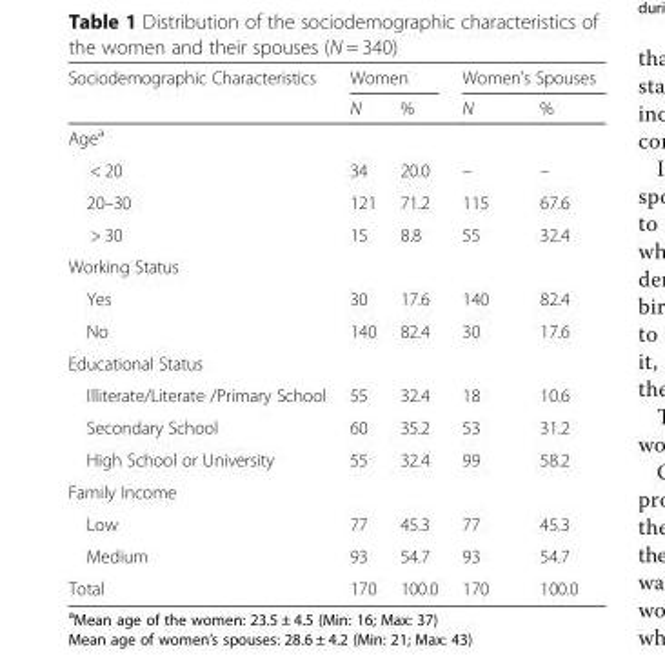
<table><thead><tr><td rowspan="2">Sociodemographic Characteristics</td><td colspan="2">Women</td><td colspan="2">Women’s Spouses</td></tr><tr><td>N</td><td>%</td><td>N</td><td>%</td></tr></thead><tbody><tr><td colspan="5">Age<sup>a</sup></td></tr><tr><td>&lt; 20</td><td>34</td><td>20.0</td><td>–</td><td>–</td></tr><tr><td>20–30</td><td>121</td><td>71.2</td><td>115</td><td>67.6</td></tr><tr><td>&gt; 30</td><td>15</td><td>8.8</td><td>55</td><td>32.4</td></tr><tr><td colspan="5">Working Status</td></tr><tr><td>Yes</td><td>30</td><td>17.6</td><td>140</td><td>82.4</td></tr><tr><td>No</td><td>140</td><td>82.4</td><td>30</td><td>17.6</td></tr><tr><td colspan="5">Educational Status</td></tr><tr><td>Illiterate/Literate /Primary School</td><td>55</td><td>32.4</td><td>18</td><td>10.6</td></tr><tr><td>Secondary School</td><td>60</td><td>35.2</td><td>53</td><td>31.2</td></tr><tr><td>High School or University</td><td>55</td><td>32.4</td><td>99</td><td>58.2</td></tr><tr><td colspan="5">Family Income</td></tr><tr><td>Low</td><td>77</td><td>45.3</td><td>77</td><td>45.3</td></tr><tr><td>Medium</td><td>93</td><td>54.7</td><td>93</td><td>54.7</td></tr><tr><td>Total</td><td>170</td><td>100.0</td><td>170</td><td>100.0</td></tr></tbody></table>